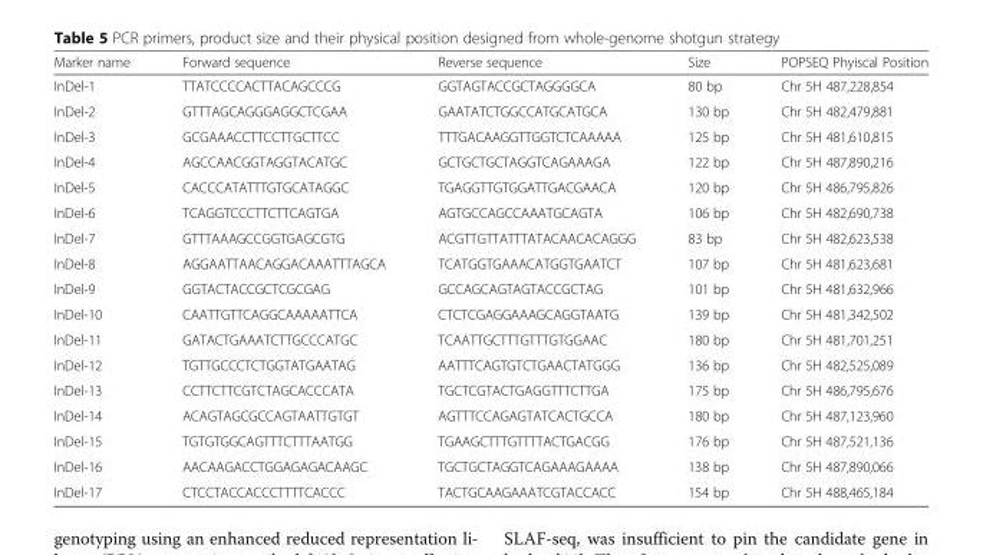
<table><thead><tr><td>Marker name</td><td>Forward sequence</td><td>Reverse sequence</td><td>Size</td><td>POPSEQ Phyiscal Position</td></tr></thead><tbody><tr><td>InDel-1</td><td>TTATCCCCACTTACAGCCCG</td><td>GGTAGTACCGCTAGGGGCA</td><td>80 bp</td><td>Chr 5H 487,228,854</td></tr><tr><td>InDel-2</td><td>GTTTAGCAGGGAGGCTCGAA</td><td>GAATATCTGGCCATGCATGCA</td><td>130 bp</td><td>Chr 5H 482,479,881</td></tr><tr><td>InDel-3</td><td>GCGAAACCTTCCTTGCTTCC</td><td>TTTGACAAGGTTGGTCTCAAAAA</td><td>125 bp</td><td>Chr 5H 481,610,815</td></tr><tr><td>InDel-4</td><td>AGCCAACGGTAGGTACATGC</td><td>GCTGCTGCTAGGTCAGAAAGA</td><td>122 bp</td><td>Chr 5H 487,890,216</td></tr><tr><td>InDel-5</td><td>CACCCATATTTGTGCATAGGC</td><td>TGAGGTTGTGGATTGACGAACA</td><td>120 bp</td><td>Chr 5H 486,795,826</td></tr><tr><td>InDel-6</td><td>TCAGGTCCCTTCTTCAGTGA</td><td>AGTGCCAGCCAAATGCAGTA</td><td>106 bp</td><td>Chr 5H 482,690,738</td></tr><tr><td>InDel-7</td><td>GTTTAAAGCCGGTGAGCGTG</td><td>ACGTTGTTATTTATACAACACAGGG</td><td>83 bp</td><td>Chr 5H 482,623,538</td></tr><tr><td>InDel-8</td><td>AGGAATTAACAGGACAAATTTAGCA</td><td>TCATGGTGAAACATGGTGAATCT</td><td>107 bp</td><td>Chr 5H 481,623,681</td></tr><tr><td>InDel-9</td><td>GGTACTACCGCTCGCGAG</td><td>GCCAGCAGTAGTACCGCTAG</td><td>101 bp</td><td>Chr 5H 481,632,966</td></tr><tr><td>InDel-10</td><td>CAATTGTTCAGGCAAAAATTCA</td><td>CTCTCGAGGAAAGCAGGTAATG</td><td>139 bp</td><td>Chr 5H 481,342,502</td></tr><tr><td>InDel-11</td><td>GATACTGAAATCTTGCCCATGC</td><td>TCAATTGCTTTGTTTGTGGAAC</td><td>180 bp</td><td>Chr 5H 481,701,251</td></tr><tr><td>InDel-12</td><td>TGTTGCCCTCTGGTATGAATAG</td><td>AATTTCAGTGTCTGAACTATGGG</td><td>136 bp</td><td>Chr 5H 482,525,089</td></tr><tr><td>InDel-13</td><td>CCTTCTTCGTCTAGCACCCATA</td><td>TGCTCGTACTGAGGTTTCTTGA</td><td>175 bp</td><td>Chr 5H 486,795,676</td></tr><tr><td>InDel-14</td><td>ACAGTAGCGCCAGTAATTGTGT</td><td>AGTTTCCAGAGTATCACTGCCA</td><td>180 bp</td><td>Chr 5H 487,123,960</td></tr><tr><td>InDel-15</td><td>TGTGTGGCAGTTTCTTTAATGG</td><td>TGAAGCTTTGTTTTACTGACGG</td><td>176 bp</td><td>Chr 5H 487,521,136</td></tr><tr><td>InDel-16</td><td>AACAAGACCTGGAGAGACAAGC</td><td>TGCTGCTAGGTCAGAAAGAAAA</td><td>138 bp</td><td>Chr 5H 487,890,066</td></tr><tr><td>InDel-17</td><td>CTCCTACCACCCTTTTCACCC</td><td>TACTGCAAGAAATCGTACCACC</td><td>154 bp</td><td>Chr 5H 488,465,184</td></tr></tbody></table>